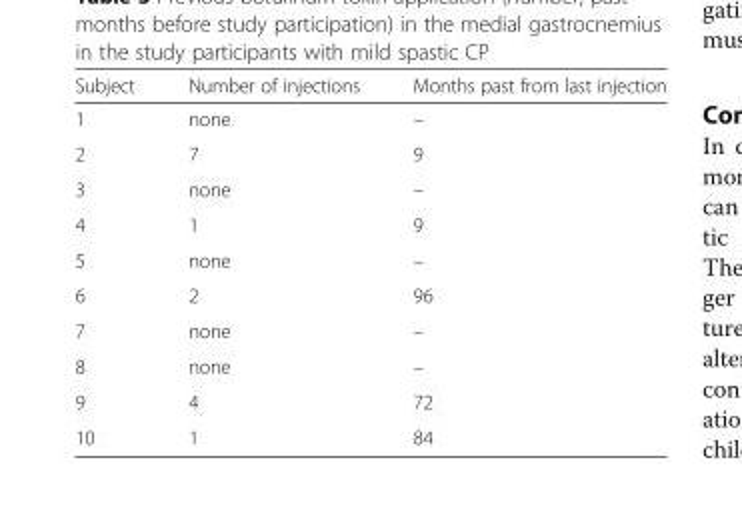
<table><thead><tr><td>Subject</td><td>Number of injections</td><td>Months past from last injection</td></tr></thead><tbody><tr><td>1</td><td>none</td><td>–</td></tr><tr><td>2</td><td>7</td><td>9</td></tr><tr><td>3</td><td>none</td><td>–</td></tr><tr><td>4</td><td>1</td><td>9</td></tr><tr><td>5</td><td>none</td><td>–</td></tr><tr><td>6</td><td>2</td><td>96</td></tr><tr><td>7</td><td>none</td><td>–</td></tr><tr><td>8</td><td>none</td><td>–</td></tr><tr><td>9</td><td>4</td><td>72</td></tr><tr><td>10</td><td>1</td><td>84</td></tr></tbody></table>